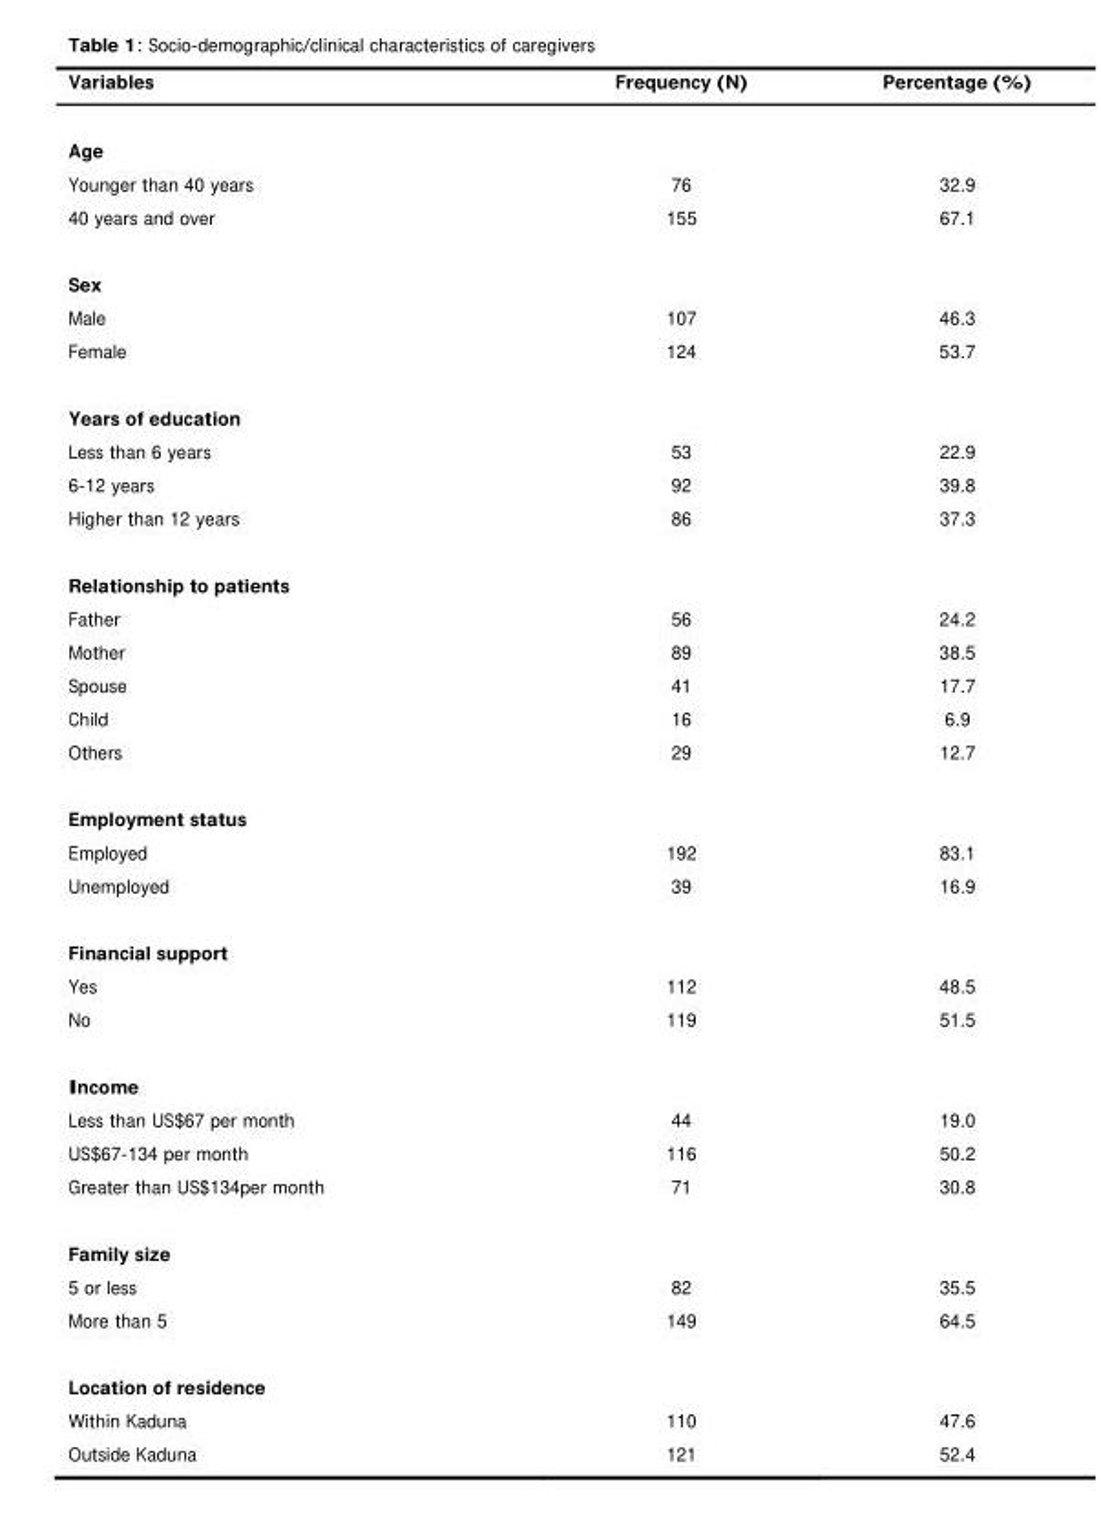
<table><thead><tr><td>Variables</td><td>Frequency (N)</td><td>Percentage (%)</td></tr></thead><tbody><tr><td colspan="3">Age</td></tr><tr><td>Younger than 40 years</td><td>76</td><td>32.9</td></tr><tr><td>40 years and over</td><td>155</td><td>67.1</td></tr><tr><td colspan="3">Sex</td></tr><tr><td>Male</td><td>107</td><td>46.3</td></tr><tr><td>Female</td><td>124</td><td>53.7</td></tr><tr><td colspan="3">Years of education</td></tr><tr><td>Less than 6 years</td><td>53</td><td>22.9</td></tr><tr><td>6-12 years</td><td>92</td><td>39.8</td></tr><tr><td>Higher than 12 years</td><td>86</td><td>37.3</td></tr><tr><td colspan="3">Relationship to patients</td></tr><tr><td>Father</td><td>56</td><td>24.2</td></tr><tr><td>Mother</td><td>89</td><td>38.5</td></tr><tr><td>Spouse</td><td>41</td><td>17.7</td></tr><tr><td>Child</td><td>16</td><td>6.9</td></tr><tr><td>Others</td><td>29</td><td>12.7</td></tr><tr><td colspan="3">Employment status</td></tr><tr><td>Employed</td><td>192</td><td>83.1</td></tr><tr><td>Unemployed</td><td>39</td><td>16.9</td></tr><tr><td colspan="3">Financial support</td></tr><tr><td>Yes</td><td>112</td><td>48.5</td></tr><tr><td>No</td><td>119</td><td>51.5</td></tr><tr><td colspan="3">Income</td></tr><tr><td>Less than US$67 per month</td><td>44</td><td>19.0</td></tr><tr><td>US$67-134 per month</td><td>116</td><td>50.2</td></tr><tr><td>Greater than US$134per month</td><td>71</td><td>30.8</td></tr><tr><td colspan="3">Family size</td></tr><tr><td>5 or less</td><td>82</td><td>35.5</td></tr><tr><td>More than 5</td><td>149</td><td>64.5</td></tr><tr><td colspan="3">Location of residence</td></tr><tr><td>Within Kaduna</td><td>110</td><td>47.6</td></tr><tr><td>Outside Kaduna</td><td>121</td><td>52.4</td></tr></tbody></table>